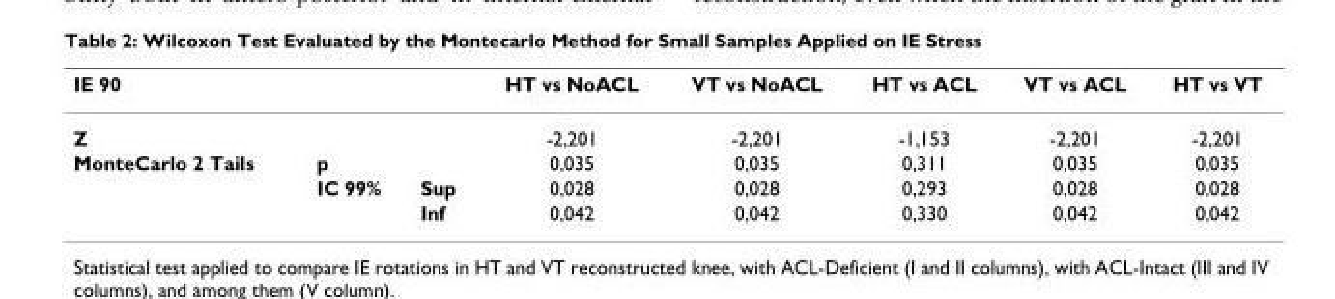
<table><thead><tr><td>IE 90</td><td></td><td></td><td>HT vs NoACL</td><td>VT vs NoACL</td><td>HT vs ACL</td><td>VT vs ACL</td><td>HT vs VT</td></tr></thead><tbody><tr><td>Z</td><td></td><td></td><td>-2,201</td><td>-2,201</td><td>-1,153</td><td>-2,201</td><td>-2,201</td></tr><tr><td rowspan="3">MonteCarlo 2 Tails</td><td>p</td><td></td><td>0,035</td><td>0,035</td><td>0,311</td><td>0,035</td><td>0,035</td></tr><tr><td>IC 99%</td><td>Sup</td><td>0,028</td><td>0,028</td><td>0,293</td><td>0,028</td><td>0,028</td></tr><tr><td></td><td>Inf</td><td>0,042</td><td>0,042</td><td>0,330</td><td>0,042</td><td>0,042</td></tr></tbody></table>